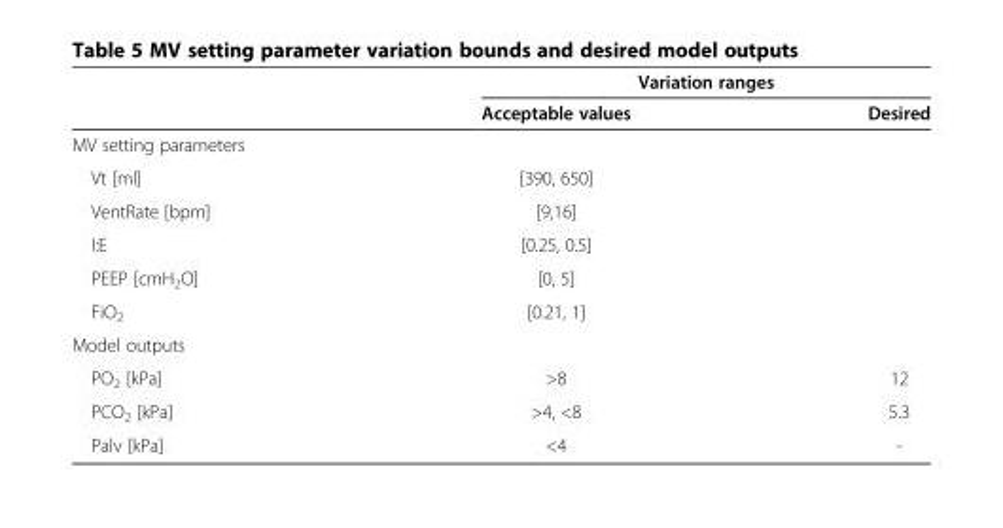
<table><thead><tr><td rowspan="2"></td><td colspan="2">Variation ranges</td></tr><tr><td>Acceptable values</td><td>Desired</td></tr></thead><tbody><tr><td colspan="3">MV setting parameters</td></tr><tr><td>Vt [ml]</td><td>[390, 650]</td><td></td></tr><tr><td>VentRate [bpm]</td><td>[9,16]</td><td></td></tr><tr><td>I:E</td><td>[0.25, 0.5]</td><td></td></tr><tr><td>PEEP [cmH<sub>2</sub>O]</td><td>[0, 5]</td><td></td></tr><tr><td>FiO<sub>2</sub></td><td>[0.21, 1]</td><td></td></tr><tr><td colspan="3">Model outputs</td></tr><tr><td>PO<sub>2</sub> [kPa]</td><td>&gt;8</td><td>12</td></tr><tr><td>PCO<sub>2</sub> [kPa]</td><td>&gt;4, &lt;8</td><td>5.3</td></tr><tr><td>Palv [kPa]</td><td>&lt;4</td><td>-</td></tr></tbody></table>